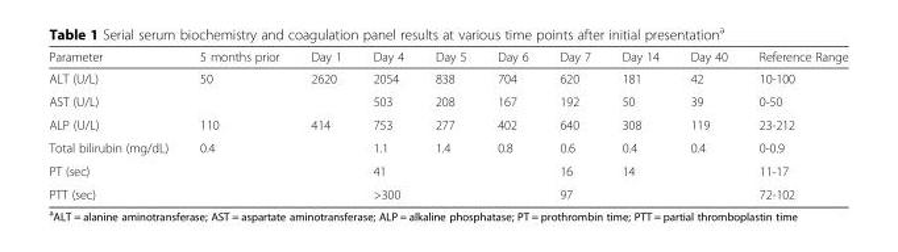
<table><thead><tr><td>Parameter</td><td>5 months prior</td><td>Day 1</td><td>Day 4</td><td>Day 5</td><td>Day 6</td><td>Day 7</td><td>Day 14</td><td>Day 40</td><td>Reference Range</td></tr></thead><tbody><tr><td>ALT (U/L)</td><td>50</td><td>2620</td><td>2054</td><td>838</td><td>704</td><td>620</td><td>181</td><td>42</td><td>10-100</td></tr><tr><td>AST (U/L)</td><td></td><td></td><td>503</td><td>208</td><td>167</td><td>192</td><td>50</td><td>39</td><td>0-50</td></tr><tr><td>ALP (U/L)</td><td>110</td><td>414</td><td>753</td><td>277</td><td>402</td><td>640</td><td>308</td><td>119</td><td>23-212</td></tr><tr><td>Total bilirubin (mg/dL)</td><td>0.4</td><td></td><td>1.1</td><td>1.4</td><td>0.8</td><td>0.6</td><td>0.4</td><td>0.4</td><td>0-0.9</td></tr><tr><td>PT (sec)</td><td></td><td></td><td>41</td><td></td><td></td><td>16</td><td>14</td><td></td><td>11-17</td></tr><tr><td>PTT (sec)</td><td></td><td></td><td>&gt;300</td><td></td><td></td><td>97</td><td></td><td></td><td>72-102</td></tr></tbody></table>